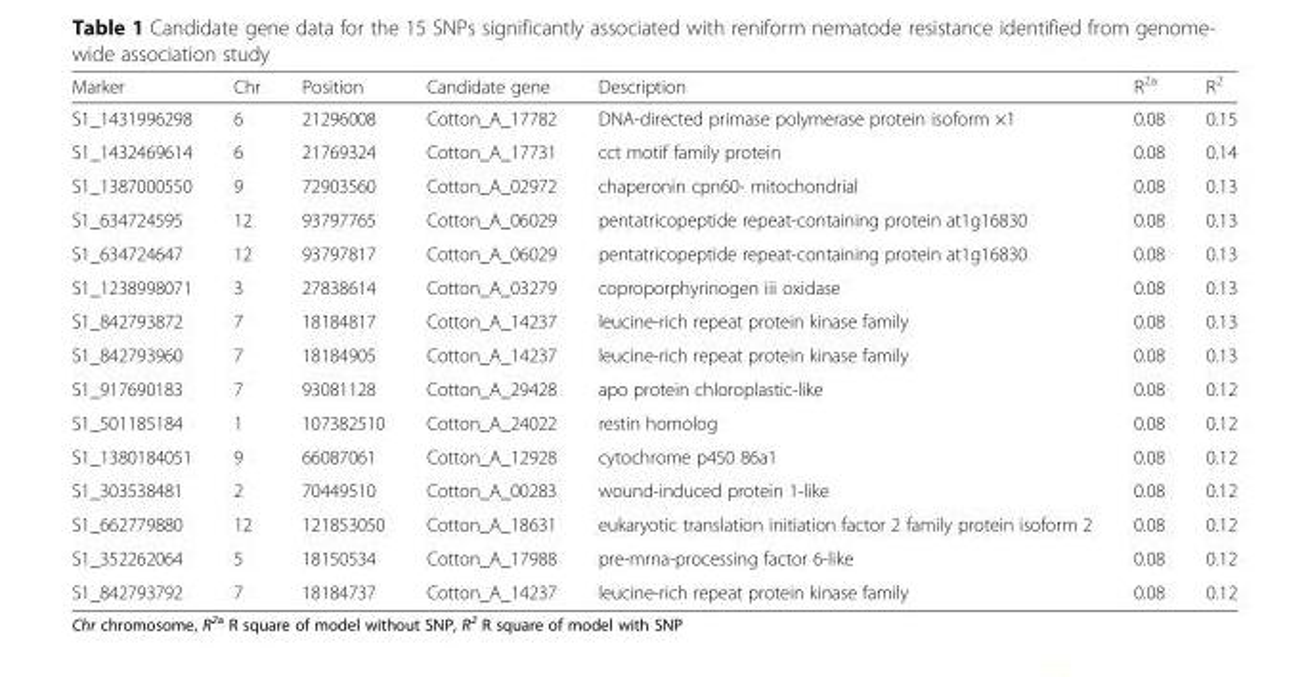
<table><thead><tr><td>Marker</td><td>Chr</td><td>Position</td><td>Candidate gene</td><td>Description</td><td>R<sup>2a</sup></td><td>R<sup>2</sup></td></tr></thead><tbody><tr><td>S1_1431996298</td><td>6</td><td>21296008</td><td>Cotton_A_17782</td><td>DNA-directed primase polymerase protein isoform ×1</td><td>0.08</td><td>0.15</td></tr><tr><td>S1_1432469614</td><td>6</td><td>21769324</td><td>Cotton_A_17731</td><td>cct motif family protein</td><td>0.08</td><td>0.14</td></tr><tr><td>S1_1387000550</td><td>9</td><td>72903560</td><td>Cotton_A_02972</td><td>chaperonin cpn60- mitochondrial</td><td>0.08</td><td>0.13</td></tr><tr><td>S1_634724595</td><td>12</td><td>93797765</td><td>Cotton_A_06029</td><td>pentatricopeptide repeat-containing protein at1g16830</td><td>0.08</td><td>0.13</td></tr><tr><td>S1_634724647</td><td>12</td><td>93797817</td><td>Cotton_A_06029</td><td>pentatricopeptide repeat-containing protein at1g16830</td><td>0.08</td><td>0.13</td></tr><tr><td>S1_1238998071</td><td>3</td><td>27838614</td><td>Cotton_A_03279</td><td>coproporphyrinogen iii oxidase</td><td>0.08</td><td>0.13</td></tr><tr><td>S1_842793872</td><td>7</td><td>18184817</td><td>Cotton_A_14237</td><td>leucine-rich repeat protein kinase family</td><td>0.08</td><td>0.13</td></tr><tr><td>S1_842793960</td><td>7</td><td>18184905</td><td>Cotton_A_14237</td><td>leucine-rich repeat protein kinase family</td><td>0.08</td><td>0.13</td></tr><tr><td>S1_917690183</td><td>7</td><td>93081128</td><td>Cotton_A_29428</td><td>apo protein chloroplastic-like</td><td>0.08</td><td>0.12</td></tr><tr><td>S1_501185184</td><td>1</td><td>107382510</td><td>Cotton_A_24022</td><td>restin homolog</td><td>0.08</td><td>0.12</td></tr><tr><td>S1_1380184051</td><td>9</td><td>66087061</td><td>Cotton_A_12928</td><td>cytochrome p450 86a1</td><td>0.08</td><td>0.12</td></tr><tr><td>S1_303538481</td><td>2</td><td>70449510</td><td>Cotton_A_00283</td><td>wound-induced protein 1-like</td><td>0.08</td><td>0.12</td></tr><tr><td>S1_662779880</td><td>12</td><td>121853050</td><td>Cotton_A_18631</td><td>eukaryotic translation initiation factor 2 family protein isoform 2</td><td>0.08</td><td>0.12</td></tr><tr><td>S1_352262064</td><td>5</td><td>18150534</td><td>Cotton_A_17988</td><td>pre-mrna-processing factor 6-like</td><td>0.08</td><td>0.12</td></tr><tr><td>S1_842793792</td><td>7</td><td>18184737</td><td>Cotton_A_14237</td><td>leucine-rich repeat protein kinase family</td><td>0.08</td><td>0.12</td></tr></tbody></table>